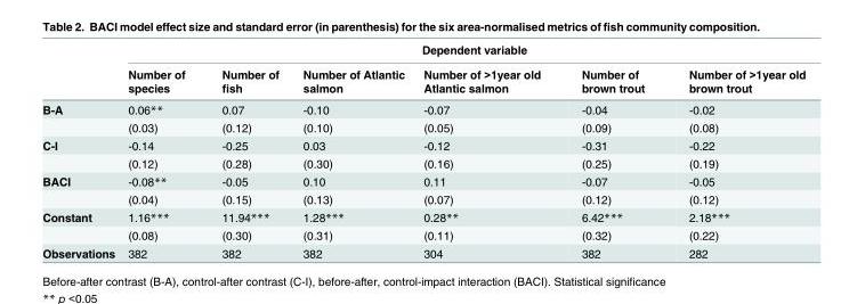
<table><thead><tr><td rowspan="2"></td><td colspan="6">Dependent variable</td></tr><tr><td>Number of species</td><td>Number of fish</td><td>Number of Atlantic salmon</td><td>Number of &gt;1year old Atlantic salmon</td><td>Number of brown trout</td><td>Number of &gt;1year old brown trout</td></tr></thead><tbody><tr><td rowspan="2">B-A</td><td>0.06**</td><td>0.07</td><td>-0.10</td><td>-0.07</td><td>-0.04</td><td>-0.02</td></tr><tr><td>(0.03)</td><td>(0.12)</td><td>(0.10)</td><td>(0.05)</td><td>(0.09)</td><td>(0.08)</td></tr><tr><td rowspan="2">C-I</td><td>-0.14</td><td>-0.25</td><td>0.03</td><td>-0.12</td><td>-0.31</td><td>-0.22</td></tr><tr><td>(0.12)</td><td>(0.28)</td><td>(0.30)</td><td>(0.16)</td><td>(0.25)</td><td>(0.19)</td></tr><tr><td rowspan="2">BACI</td><td>-0.08**</td><td>-0.05</td><td>0.10</td><td>0.11</td><td>-0.07</td><td>-0.05</td></tr><tr><td>(0.04)</td><td>(0.15)</td><td>(0.13)</td><td>(0.07)</td><td>(0.12)</td><td>(0.12)</td></tr><tr><td rowspan="2">Constant</td><td>1.16***</td><td>11.94***</td><td>1.28***</td><td>0.28**</td><td>6.42***</td><td>2.18***</td></tr><tr><td>(0.08)</td><td>(0.30)</td><td>(0.31)</td><td>(0.11)</td><td>(0.32)</td><td>(0.22)</td></tr><tr><td>Observations</td><td>382</td><td>382</td><td>382</td><td>304</td><td>382</td><td>282</td></tr></tbody></table>